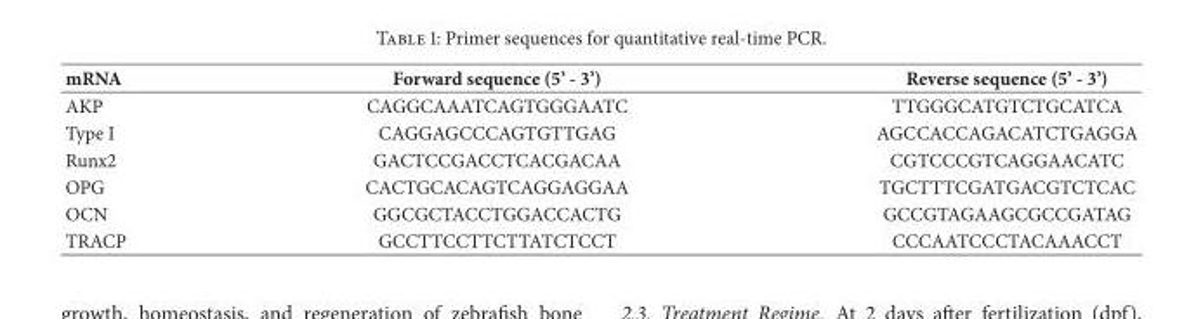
<table><thead><tr><td>mRNA</td><td>Forward sequence (5’ - 3’)</td><td>Reverse sequence (5’ - 3’)</td></tr></thead><tbody><tr><td>AKP</td><td>CAGGCAAATCAGTGGGAATC</td><td>TTGGGCATGTCTGCATCA</td></tr><tr><td>Type I</td><td>CAGGAGCCCAGTGTTGAG</td><td>AGCCACCAGACATCTGAGGA</td></tr><tr><td>Runx2</td><td>GACTCCGACCTCACGACAA</td><td>CGTCCCGTCAGGAACATC</td></tr><tr><td>OPG</td><td>CACTGCACAGTCAGGAGGAA</td><td>TGCTTTCGATGACGTCTCAC</td></tr><tr><td>OCN</td><td>GGCGCTACCTGGACCACTG</td><td>GCCGTAGAAGCGCCGATAG</td></tr><tr><td>TRACP</td><td>GCCTTCCTTCTTATCTCCT</td><td>CCCAATCCCTACAAACCT</td></tr></tbody></table>